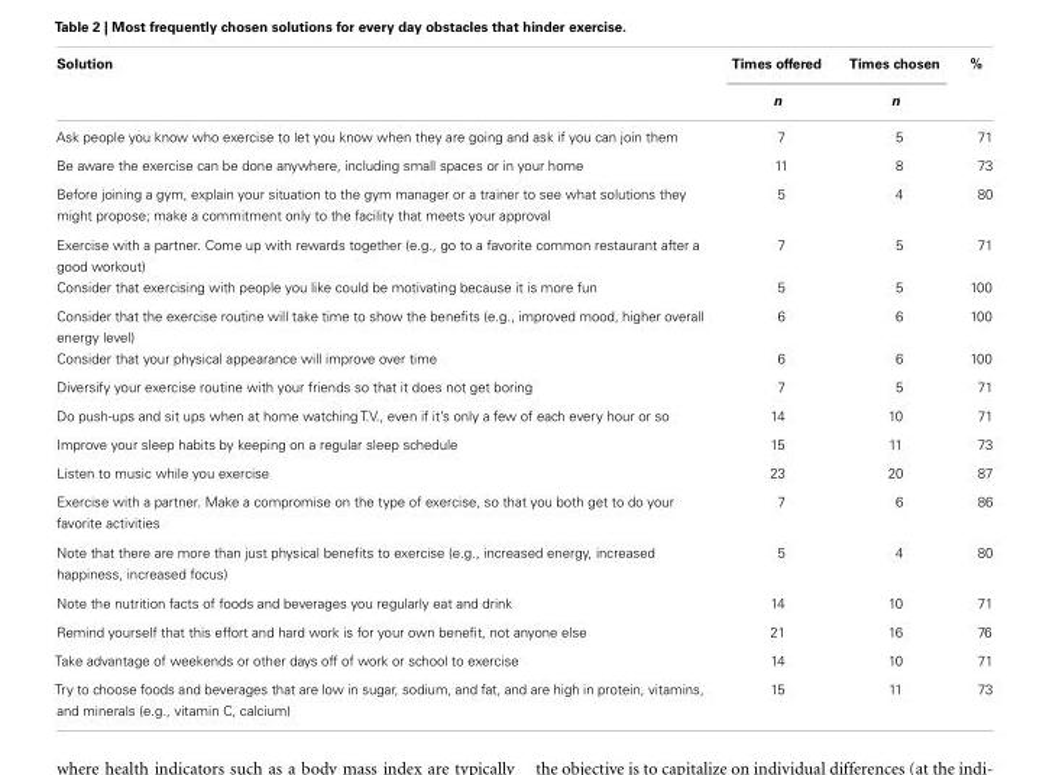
<table><thead><tr><td rowspan="2">Solution</td><td rowspan="2">Times offered n</td><td rowspan="2">Times chosen n</td><td rowspan="2">%</td></tr><tr></tr></thead><tbody><tr><td>Ask people you know who exercise to let you know when they are going and ask if you can join them</td><td>7</td><td>5</td><td>71</td></tr><tr><td>Be aware the exercise can be done anywhere, including small spaces or in your home</td><td>11</td><td>8</td><td>73</td></tr><tr><td>Before joining a gym, explain your situation to the gym manager or a trainer to see what solutions they might propose; make a commitment only to the facility that meets your approval</td><td>5</td><td>4</td><td>80</td></tr><tr><td>Exercise with a partner. Come up with rewards together (e.g., go to a favorite common restaurant after a good workout)</td><td>7</td><td>5</td><td>71</td></tr><tr><td>Consider that exercising with people you like could be motivating because it is more fun</td><td>5</td><td>5</td><td>100</td></tr><tr><td>Consider that the exercise routine will take time to show the benefits (e.g., improved mood, higher overall energy level)</td><td>6</td><td>6</td><td>100</td></tr><tr><td>Consider that your physical appearance will improve over time</td><td>6</td><td>6</td><td>100</td></tr><tr><td>Diversify your exercise routine with your friends so that it does not get boring</td><td>7</td><td>5</td><td>71</td></tr><tr><td>Do push-ups and sit ups when at home watching T.V., even if it’s only a few of each every hour or so</td><td>14</td><td>10</td><td>71</td></tr><tr><td>Improve your sleep habits by keeping on a regular sleep schedule</td><td>15</td><td>11</td><td>73</td></tr><tr><td>Listen to music while you exercise</td><td>23</td><td>20</td><td>87</td></tr><tr><td>Exercise with a partner. Make a compromise on the type of exercise, so that you both get to do your favorite activities</td><td>7</td><td>6</td><td>86</td></tr><tr><td>Note that there are more than just physical benefits to exercise (e.g., increased energy, increased happiness, increased focus)</td><td>5</td><td>4</td><td>80</td></tr><tr><td>Note the nutrition facts of foods and beverages you regularly eat and drink</td><td>14</td><td>10</td><td>71</td></tr><tr><td>Remind yourself that this effort and hard work is for your own benefit, not anyone else</td><td>21</td><td>16</td><td>76</td></tr><tr><td>Take advantage of weekends or other days off of work or school to exercise</td><td>14</td><td>10</td><td>71</td></tr><tr><td>Try to choose foods and beverages that are low in sugar, sodium, and fat, and are high in protein, vitamins, and minerals (e.g., vitamin C, calcium)</td><td>15</td><td>11</td><td>73</td></tr></tbody></table>